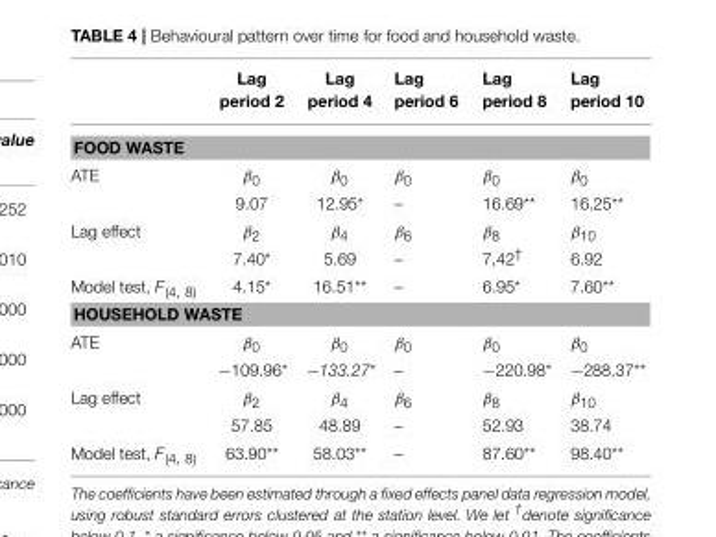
<table><thead><tr><td></td><td>Lag period 2</td><td>Lag period 4</td><td>Lag period 6</td><td>Lag period 8</td><td>Lag period 10</td></tr></thead><tbody><tr><td colspan="6">FOOD WASTE</td></tr><tr><td rowspan="2">ATE</td><td>β<sub>0</sub></td><td>β<sub>0</sub></td><td>β<sub>0</sub></td><td>β<sub>0</sub></td><td>β<sub>0</sub></td></tr><tr><td>9.07</td><td>12.95*</td><td>–</td><td>16.69**</td><td>16.25**</td></tr><tr><td rowspan="2">Lag effect</td><td>β<sub>2</sub></td><td>β<sub>4</sub></td><td>β<sub>6</sub></td><td>β<sub>8</sub></td><td>β<sub>10</sub></td></tr><tr><td>7.40*</td><td>5.69</td><td>–</td><td>7,42<sup>†</sup></td><td>6.92</td></tr><tr><td>Model test, F<sub>(4, 8)</sub></td><td>4.15*</td><td>16.51**</td><td>–</td><td>6.95*</td><td>7.60**</td></tr><tr><td colspan="6">HOUSEHOLD WASTE</td></tr><tr><td rowspan="2">ATE</td><td>β<sub>0</sub></td><td>β<sub>0</sub></td><td>β<sub>0</sub></td><td>β<sub>0</sub></td><td>β<sub>0</sub></td></tr><tr><td>−109.96*</td><td>−133.27*</td><td>–</td><td>−220.98*</td><td>−288.37**</td></tr><tr><td rowspan="2">Lag effect</td><td>β<sub>2</sub></td><td>β<sub>4</sub></td><td>β<sub>6</sub></td><td>β<sub>8</sub></td><td>β<sub>10</sub></td></tr><tr><td>57.85</td><td>48.89</td><td>–</td><td>52.93</td><td>38.74</td></tr><tr><td>Model test, F<sub>(4, 8)</sub></td><td>63.90**</td><td>58.03**</td><td>–</td><td>87.60**</td><td>98.40**</td></tr></tbody></table>